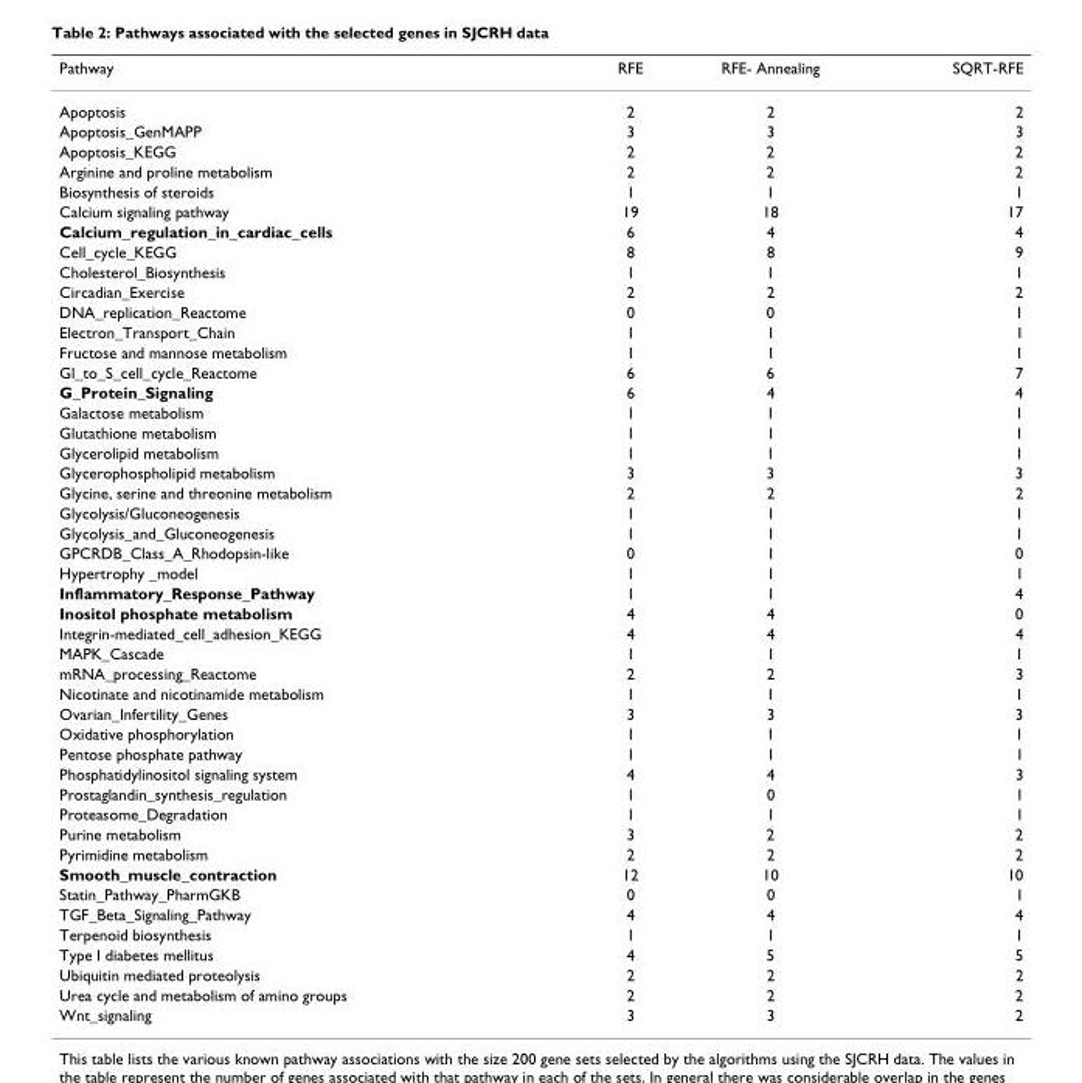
<table><thead><tr><td>Pathway</td><td>RFE</td><td>RFE- Annealing</td><td>SQRT-RFE</td></tr></thead><tbody><tr><td>Apoptosis</td><td>2</td><td>2</td><td>2</td></tr><tr><td>Apoptosis_GenMAPP</td><td>3</td><td>3</td><td>3</td></tr><tr><td>Apoptosis_KEGG</td><td>2</td><td>2</td><td>2</td></tr><tr><td>Arginine and proline metabolism</td><td>2</td><td>2</td><td>2</td></tr><tr><td>Biosynthesis of steroids</td><td>1</td><td>1</td><td>1</td></tr><tr><td>Calcium signaling pathway</td><td>19</td><td>18</td><td>17</td></tr><tr><td>Calcium_regulation_in_cardiac_cells</td><td>6</td><td>4</td><td>4</td></tr><tr><td>Cell_cycle_KEGG</td><td>8</td><td>8</td><td>9</td></tr><tr><td>Cholesterol_Biosynthesis</td><td>1</td><td>1</td><td>1</td></tr><tr><td>Circadian_Exercise</td><td>2</td><td>2</td><td>2</td></tr><tr><td>DNA_replication_Reactome</td><td>0</td><td>0</td><td>1</td></tr><tr><td>Electron_Transport_Chain</td><td>1</td><td>1</td><td>1</td></tr><tr><td>Fructose and mannose metabolism</td><td>1</td><td>1</td><td>1</td></tr><tr><td>Gl_to_S_cell_cycle_Reactome</td><td>6</td><td>6</td><td>7</td></tr><tr><td>G_Protein_Signaling</td><td>6</td><td>4</td><td>4</td></tr><tr><td>Galactose metabolism</td><td>1</td><td>1</td><td>1</td></tr><tr><td>Glutathione metabolism</td><td>1</td><td>1</td><td>1</td></tr><tr><td>Glycerolipid metabolism</td><td>1</td><td>1</td><td>1</td></tr><tr><td>Glycerophospholipid metabolism</td><td>3</td><td>3</td><td>3</td></tr><tr><td>Glycine, serine and threonine metabolism</td><td>2</td><td>2</td><td>2</td></tr><tr><td>Glycolysis/Gluconeogenesis</td><td>1</td><td>1</td><td>1</td></tr><tr><td>Glycolysis_and_Gluconeogenesis</td><td>1</td><td>1</td><td>1</td></tr><tr><td>GPCRDB_Class_A_Rhodopsin-like</td><td>0</td><td>1</td><td>0</td></tr><tr><td>Hypertrophy _model</td><td>1</td><td>1</td><td>1</td></tr><tr><td>Inflammatory_Response_Pathway</td><td>1</td><td>1</td><td>4</td></tr><tr><td>Inositol phosphate metabolism</td><td>4</td><td>4</td><td>0</td></tr><tr><td>Integrin-mediated_cell_adhesion_KEGG</td><td>4</td><td>4</td><td>4</td></tr><tr><td>MAPK_Cascade</td><td>1</td><td>1</td><td>1</td></tr><tr><td>mRNA_processing_Reactome</td><td>2</td><td>2</td><td>3</td></tr><tr><td>Nicotinate and nicotinamide metabolism</td><td>1</td><td>1</td><td>1</td></tr><tr><td>Ovarian_Infertility_Genes</td><td>3</td><td>3</td><td>3</td></tr><tr><td>Oxidative phosphorylation</td><td>1</td><td>1</td><td>1</td></tr><tr><td>Pentose phosphate pathway</td><td>1</td><td>1</td><td>1</td></tr><tr><td>Phosphatidylinositol signaling system</td><td>4</td><td>4</td><td>3</td></tr><tr><td>Prostaglandin_synthesis_regulation</td><td>1</td><td>0</td><td>1</td></tr><tr><td>Proteasome_Degradation</td><td>1</td><td>1</td><td>1</td></tr><tr><td>Purine metabolism</td><td>3</td><td>2</td><td>2</td></tr><tr><td>Pyrimidine metabolism</td><td>2</td><td>2</td><td>2</td></tr><tr><td>Smooth_muscle_contraction</td><td>12</td><td>10</td><td>10</td></tr><tr><td>Statin_Pathway_PharmGKB</td><td>0</td><td>0</td><td>1</td></tr><tr><td>TGF_Beta_Signaling_Pathway</td><td>4</td><td>4</td><td>4</td></tr><tr><td>Terpenoid biosynthesis</td><td>1</td><td>1</td><td>1</td></tr><tr><td>Type I diabetes mellitus</td><td>4</td><td>5</td><td>5</td></tr><tr><td>Ubiquitin mediated proteolysis</td><td>2</td><td>2</td><td>2</td></tr><tr><td>Urea cycle and metabolism of amino groups</td><td>2</td><td>2</td><td>2</td></tr><tr><td>Wnt_signaling</td><td>3</td><td>3</td><td>2</td></tr></tbody></table>